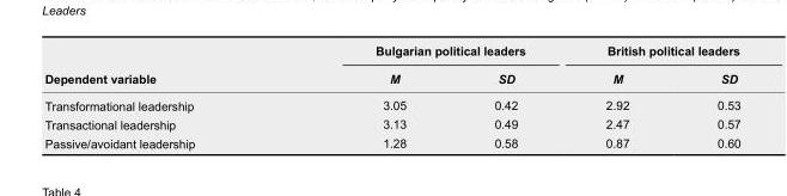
<table><thead><tr><td rowspan="2">Dependent variable</td><td colspan="2">Bulgarian political leaders</td><td colspan="2">British political leaders</td></tr><tr><td>M</td><td>SD</td><td>M</td><td>SD</td></tr></thead><tbody><tr><td>Transformational leadership</td><td>3.05</td><td>0.42</td><td>2.92</td><td>0.53</td></tr><tr><td>Transactional leadership</td><td>3.13</td><td>0.49</td><td>2.47</td><td>0.57</td></tr><tr><td>Passive/avoidant leadership</td><td>1.28</td><td>0.58</td><td>0.87</td><td>0.60</td></tr></tbody></table>